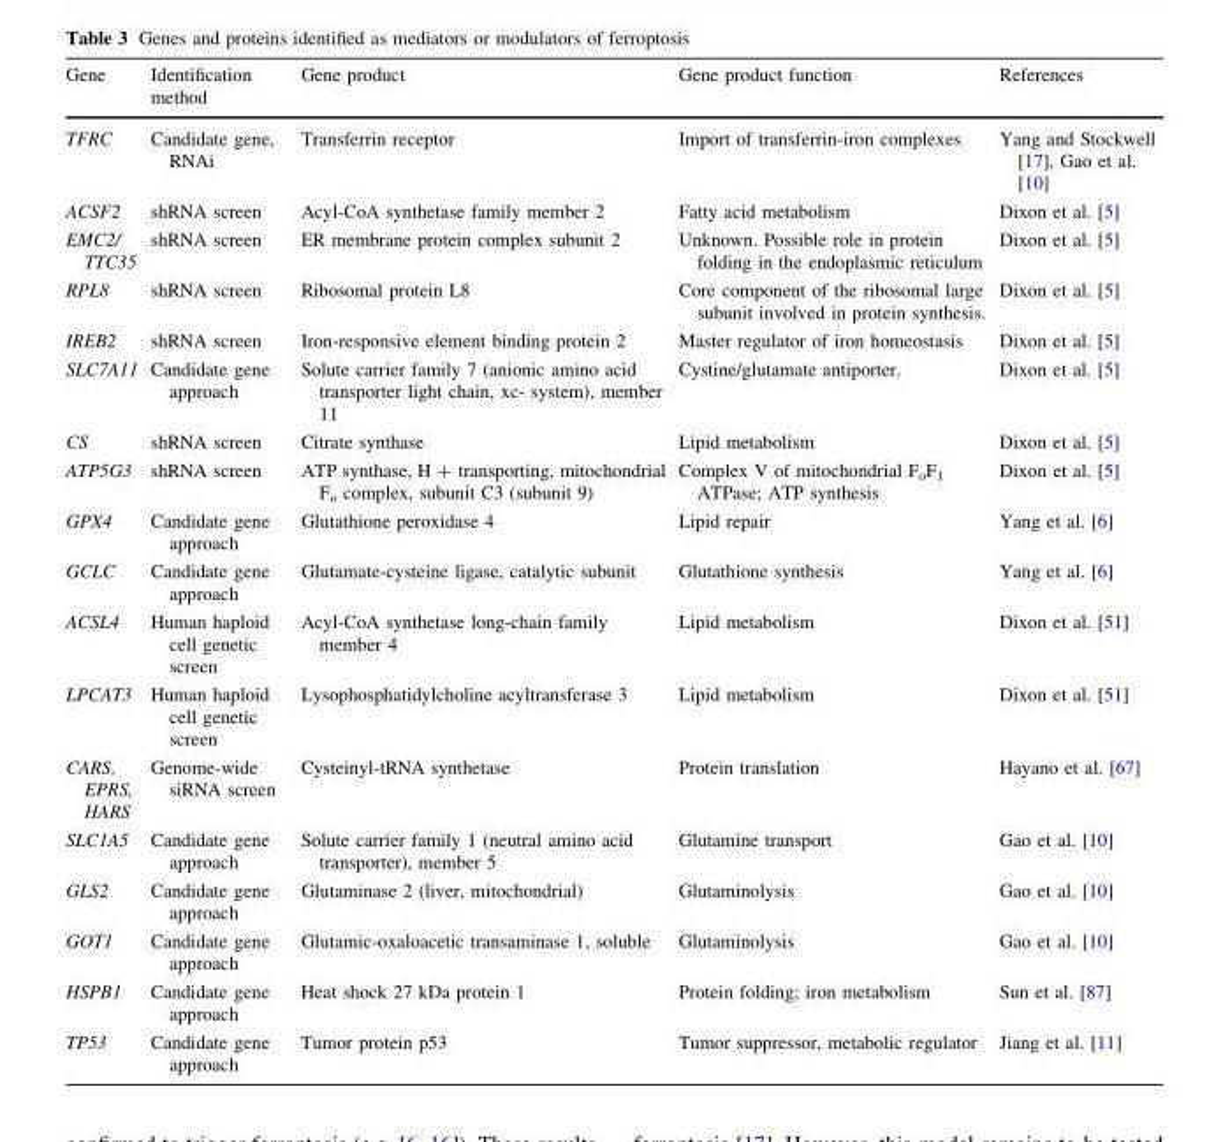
<table><thead><tr><td>Gene</td><td>Identification method</td><td>Gene product</td><td>Gene product function</td><td>References</td></tr></thead><tbody><tr><td>TFRC</td><td>Candidate gene, RNAi</td><td>Transferrin receptor</td><td>Import of transferrin-iron complexes</td><td>Yang and Stockwell [17], Gao et al. [10]</td></tr><tr><td>ACSF2</td><td>shRNA screen</td><td>Acyl-CoA synthetase family member 2</td><td>Fatty acid metabolism</td><td>Dixon et al. [5]</td></tr><tr><td>EMC2/ TTC35</td><td>shRNA screen</td><td>ER membrane protein complex subunit 2</td><td>Unknown. Possible role in protein folding in the endoplasmic reticulum</td><td>Dixon et al. [5]</td></tr><tr><td>RPL8</td><td>shRNA screen</td><td>Ribosomal protein L8</td><td>Core component of the ribosomal large subunit involved in protein synthesis.</td><td>Dixon et al. [5]</td></tr><tr><td>IREB2</td><td>shRNA screen</td><td>Iron-responsive element binding protein 2</td><td>Master regulator of iron homeostasis</td><td>Dixon et al. [5]</td></tr><tr><td>SLC7A11</td><td>Candidate gene approach</td><td>Solute carrier family 7 (anionic amino acid transporter light chain, xc- system), member 11</td><td>Cystine/glutamate antiporter.</td><td>Dixon et al. [5]</td></tr><tr><td>CS</td><td>shRNA screen</td><td>Citrate synthase</td><td>Lipid metabolism</td><td>Dixon et al. [5]</td></tr><tr><td>ATP5G3</td><td>shRNA screen</td><td>ATP synthase, H + transporting, mitochondrial F<sub>o</sub> complex, subunit C3 (subunit 9)</td><td>Complex V of mitochondrial F<sub>o</sub>F<sub>1</sub> ATPase; ATP synthesis</td><td>Dixon et al. [5]</td></tr><tr><td>GPX4</td><td>Candidate gene approach</td><td>Glutathione peroxidase 4</td><td>Lipid repair</td><td>Yang et al. [6]</td></tr><tr><td>GCLC</td><td>Candidate gene approach</td><td>Glutamate-cysteine ligase, catalytic subunit</td><td>Glutathione synthesis</td><td>Yang et al. [6]</td></tr><tr><td>ACSL4</td><td>Human haploid cell genetic screen</td><td>Acyl-CoA synthetase long-chain family member 4</td><td>Lipid metabolism</td><td>Dixon et al. [51]</td></tr><tr><td>LPCAT3</td><td>Human haploid cell genetic screen</td><td>Lysophosphatidylcholine acyltransferase 3</td><td>Lipid metabolism</td><td>Dixon et al. [51]</td></tr><tr><td>CARS, EPRS, HARS</td><td>Genome-wide siRNA screen</td><td>Cysteinyl-tRNA synthetase</td><td>Protein translation</td><td>Hayano et al. [67]</td></tr><tr><td>SLC1A5</td><td>Candidate gene approach</td><td>Solute carrier family 1 (neutral amino acid transporter), member 5</td><td>Glutamine transport</td><td>Gao et al. [10]</td></tr><tr><td>GLS2</td><td>Candidate gene approach</td><td>Glutaminase 2 (liver, mitochondrial)</td><td>Glutaminolysis</td><td>Gao et al. [10]</td></tr><tr><td>GOT1</td><td>Candidate gene approach</td><td>Glutamic-oxaloacetic transaminase 1, soluble</td><td>Glutaminolysis</td><td>Gao et al. [10]</td></tr><tr><td>HSPB1</td><td>Candidate gene approach</td><td>Heat shock 27 kDa protein 1</td><td>Protein folding; iron metabolism</td><td>Sun et al. [87]</td></tr><tr><td>TP53</td><td>Candidate gene approach</td><td>Tumor protein p53</td><td>Tumor suppressor, metabolic regulator</td><td>Jiang et al. [11]</td></tr></tbody></table>